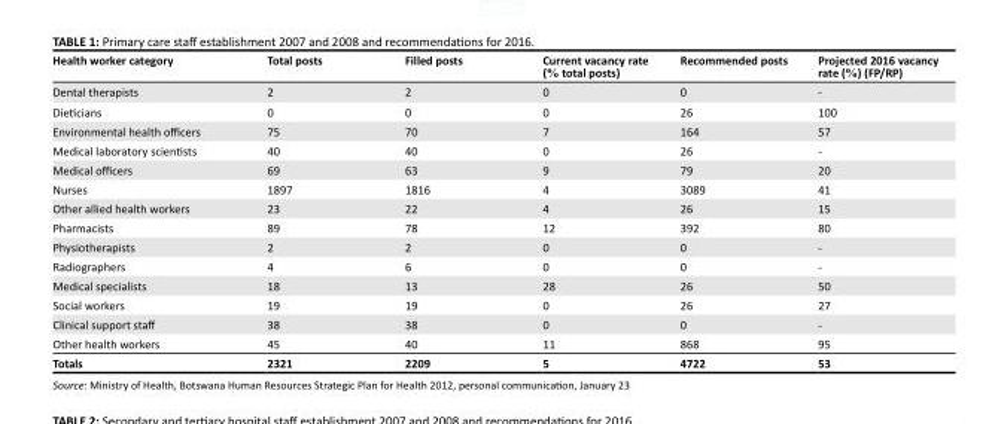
<table><thead><tr><td>Health worker category</td><td>Total posts</td><td>Filled posts</td><td>Current vacancy rate (% total posts)</td><td>Recommended posts</td><td>Projected 2016 vacancy rate (%) (FP/RP)</td></tr></thead><tbody><tr><td>Dental therapists</td><td>2</td><td>2</td><td>0</td><td>0</td><td>-</td></tr><tr><td>Dieticians</td><td>0</td><td>0</td><td>0</td><td>26</td><td>100</td></tr><tr><td>Environmental health officers</td><td>75</td><td>70</td><td>7</td><td>164</td><td>57</td></tr><tr><td>Medical laboratory scientists</td><td>40</td><td>40</td><td>0</td><td>26</td><td>-</td></tr><tr><td>Medical officers</td><td>69</td><td>63</td><td>9</td><td>79</td><td>20</td></tr><tr><td>Nurses</td><td>1897</td><td>1816</td><td>4</td><td>3089</td><td>41</td></tr><tr><td>Other allied health workers</td><td>23</td><td>22</td><td>4</td><td>26</td><td>15</td></tr><tr><td>Pharmacists</td><td>89</td><td>78</td><td>12</td><td>392</td><td>80</td></tr><tr><td>Physiotherapists</td><td>2</td><td>2</td><td>0</td><td>0</td><td>-</td></tr><tr><td>Radiographers</td><td>4</td><td>6</td><td>0</td><td>0</td><td>-</td></tr><tr><td>Medical specialists</td><td>18</td><td>13</td><td>28</td><td>26</td><td>50</td></tr><tr><td>Social workers</td><td>19</td><td>19</td><td>0</td><td>26</td><td>27</td></tr><tr><td>Clinical support staff</td><td>38</td><td>38</td><td>0</td><td>0</td><td>-</td></tr><tr><td>Other health workers</td><td>45</td><td>40</td><td>11</td><td>868</td><td>95</td></tr><tr><td>Totals</td><td>2321</td><td>2209</td><td>5</td><td>4722</td><td>53</td></tr></tbody></table>